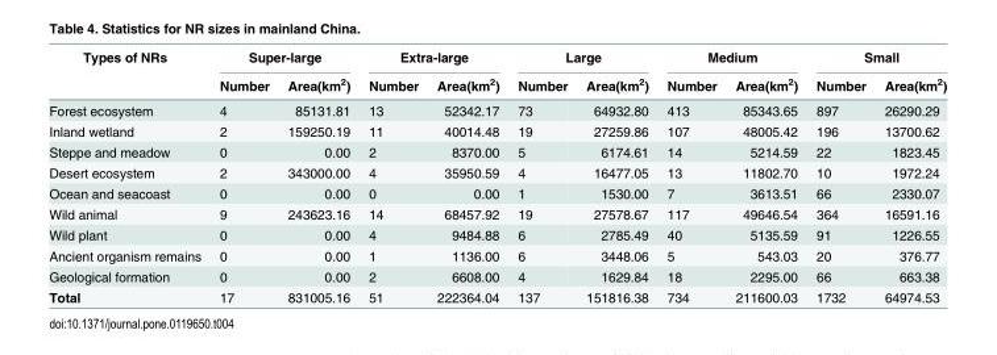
<table><thead><tr><td rowspan="2">Types of NRs</td><td colspan="2">Super-large</td><td colspan="2">Extra-large</td><td colspan="2">Large</td><td colspan="2">Medium</td><td colspan="2">Small</td></tr><tr><td>Number</td><td>Area(km<sup>2</sup>)</td><td>Number</td><td>Area(km<sup>2</sup>)</td><td>Number</td><td>Area(km<sup>2</sup>)</td><td>Number</td><td>Area(km<sup>2</sup>)</td><td>Number</td><td>Area(km<sup>2</sup>)</td></tr></thead><tbody><tr><td>Forest ecosystem</td><td>4</td><td>85131.81</td><td>13</td><td>52342.17</td><td>73</td><td>64932.80</td><td>413</td><td>85343.65</td><td>897</td><td>26290.29</td></tr><tr><td>Inland wetland</td><td>2</td><td>159250.19</td><td>11</td><td>40014.48</td><td>19</td><td>27259.86</td><td>107</td><td>48005.42</td><td>196</td><td>13700.62</td></tr><tr><td>Steppe and meadow</td><td>0</td><td>0.00</td><td>2</td><td>8370.00</td><td>5</td><td>6174.61</td><td>14</td><td>5214.59</td><td>22</td><td>1823.45</td></tr><tr><td>Desert ecosystem</td><td>2</td><td>343000.00</td><td>4</td><td>35950.59</td><td>4</td><td>16477.05</td><td>13</td><td>11802.70</td><td>10</td><td>1972.24</td></tr><tr><td>Ocean and seacoast</td><td>0</td><td>0.00</td><td>0</td><td>0.00</td><td>1</td><td>1530.00</td><td>7</td><td>3613.51</td><td>66</td><td>2330.07</td></tr><tr><td>Wild animal</td><td>9</td><td>243623.16</td><td>14</td><td>68457.92</td><td>19</td><td>27578.67</td><td>117</td><td>49646.54</td><td>364</td><td>16591.16</td></tr><tr><td>Wild plant</td><td>0</td><td>0.00</td><td>4</td><td>9484.88</td><td>6</td><td>2785.49</td><td>40</td><td>5135.59</td><td>91</td><td>1226.55</td></tr><tr><td>Ancient organism remains</td><td>0</td><td>0.00</td><td>1</td><td>1136.00</td><td>6</td><td>3448.06</td><td>5</td><td>543.03</td><td>20</td><td>376.77</td></tr><tr><td>Geological formation</td><td>0</td><td>0.00</td><td>2</td><td>6608.00</td><td>4</td><td>1629.84</td><td>18</td><td>2295.00</td><td>66</td><td>663.38</td></tr><tr><td>Total</td><td>17</td><td>831005.16</td><td>51</td><td>222364.04</td><td>137</td><td>151816.38</td><td>734</td><td>211600.03</td><td>1732</td><td>64974.53</td></tr></tbody></table>